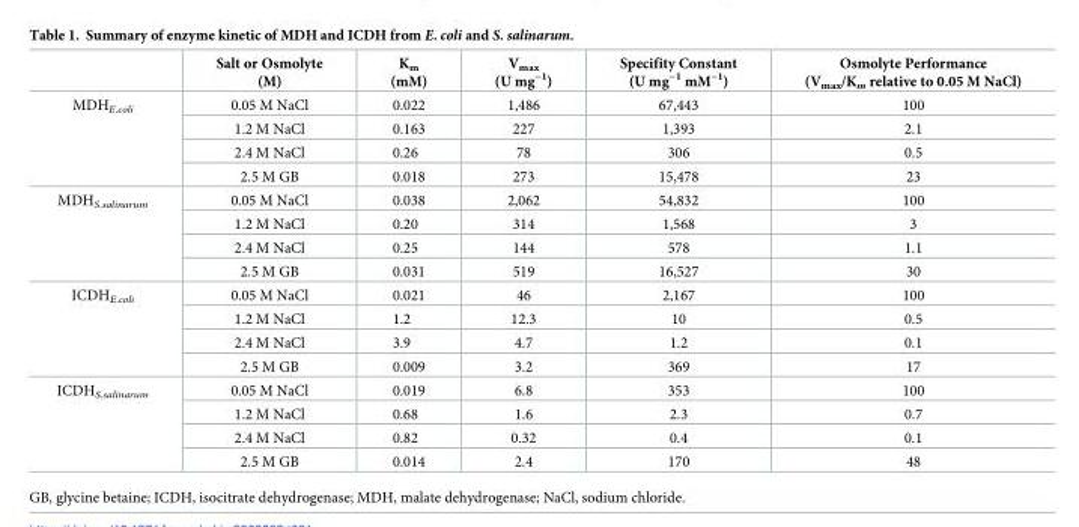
<table><thead><tr><td></td><td>Salt or Osmolyte (M)</td><td>K<sub>m</sub> (mM)</td><td>V<sub>max</sub> (U mg<sup>−1</sup>)</td><td>Specifity Constant (U mg<sup>−1</sup> mM<sup>−1</sup>)</td><td>Osmolyte Performance (V<sub>max</sub>/K<sub>m</sub> relative to 0.05 M NaCl)</td></tr></thead><tbody><tr><td rowspan="4">MDH<sub>E.coli</sub></td><td>0.05 M NaCl</td><td>0.022</td><td>1,486</td><td>67,443</td><td>100</td></tr><tr><td>1.2 M NaCl</td><td>0.163</td><td>227</td><td>1,393</td><td>2.1</td></tr><tr><td>2.4 M NaCl</td><td>0.26</td><td>78</td><td>306</td><td>0.5</td></tr><tr><td>2.5 M GB</td><td>0.018</td><td>273</td><td>15,478</td><td>23</td></tr><tr><td rowspan="4">MDH<sub>S.salinarum</sub></td><td>0.05 M NaCl</td><td>0.038</td><td>2,062</td><td>54,832</td><td>100</td></tr><tr><td>1.2 M NaCl</td><td>0.20</td><td>314</td><td>1,568</td><td>3</td></tr><tr><td>2.4 M NaCl</td><td>0.25</td><td>144</td><td>578</td><td>1.1</td></tr><tr><td>2.5 M GB</td><td>0.031</td><td>519</td><td>16,527</td><td>30</td></tr><tr><td rowspan="4">ICDH<sub>E.coli</sub></td><td>0.05 M NaCl</td><td>0.021</td><td>46</td><td>2,167</td><td>100</td></tr><tr><td>1.2 M NaCl</td><td>1.2</td><td>12.3</td><td>10</td><td>0.5</td></tr><tr><td>2.4 M NaCl</td><td>3.9</td><td>4.7</td><td>1.2</td><td>0.1</td></tr><tr><td>2.5 M GB</td><td>0.009</td><td>3.2</td><td>369</td><td>17</td></tr><tr><td rowspan="4">ICDH<sub>S.salinarum</sub></td><td>0.05 M NaCl</td><td>0.019</td><td>6.8</td><td>353</td><td>100</td></tr><tr><td>1.2 M NaCl</td><td>0.68</td><td>1.6</td><td>2.3</td><td>0.7</td></tr><tr><td>2.4 M NaCl</td><td>0.82</td><td>0.32</td><td>0.4</td><td>0.1</td></tr><tr><td>2.5 M GB</td><td>0.014</td><td>2.4</td><td>170</td><td>48</td></tr></tbody></table>